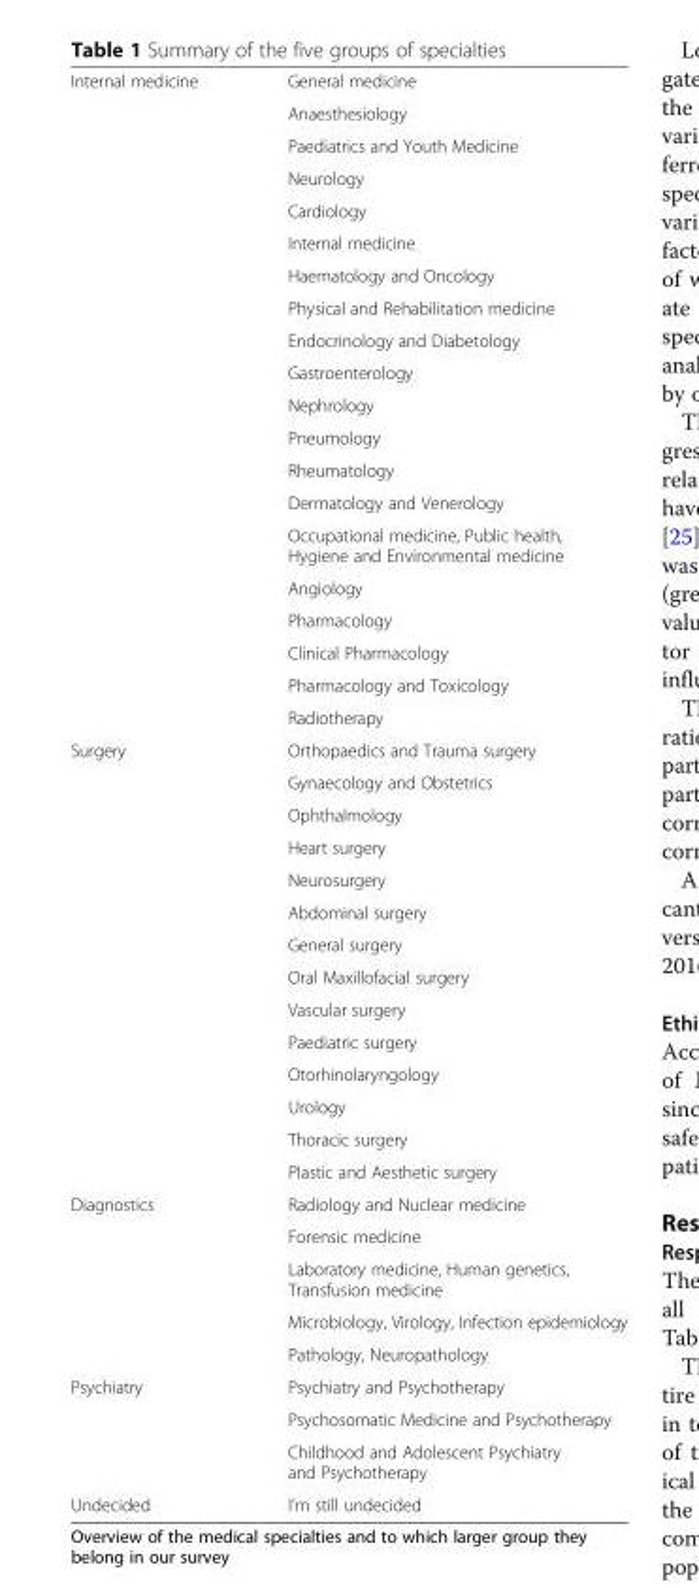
<table><tbody><tr><td rowspan="20">Internal medicine</td><td>General medicine</td></tr><tr><td>Anaesthesiology</td></tr><tr><td>Paediatrics and Youth Medicine</td></tr><tr><td>Neurology</td></tr><tr><td>Cardiology</td></tr><tr><td>Internal medicine</td></tr><tr><td>Haematology and Oncology</td></tr><tr><td>Physical and Rehabilitation medicine</td></tr><tr><td>Endocrinology and Diabetology</td></tr><tr><td>Gastroenterology</td></tr><tr><td>Nephrology</td></tr><tr><td>Pneumology</td></tr><tr><td>Rheumatology</td></tr><tr><td>Dermatology and Venerology</td></tr><tr><td>Occupational medicine, Public health, Hygiene and Environmental medicine</td></tr><tr><td>Angiology</td></tr><tr><td>Pharmacology</td></tr><tr><td>Clinical Pharmacology</td></tr><tr><td>Pharmacology and Toxicology</td></tr><tr><td>Radiotherapy</td></tr><tr><td rowspan="14">Surgery</td><td>Orthopaedics and Trauma surgery</td></tr><tr><td>Gynaecology and Obstetrics</td></tr><tr><td>Ophthalmology</td></tr><tr><td>Heart surgery</td></tr><tr><td>Neurosurgery</td></tr><tr><td>Abdominal surgery</td></tr><tr><td>General surgery</td></tr><tr><td>Oral Maxillofacial surgery</td></tr><tr><td>Vascular surgery</td></tr><tr><td>Paediatric surgery</td></tr><tr><td>Otorhinolaryngology</td></tr><tr><td>Urology</td></tr><tr><td>Thoracic surgery</td></tr><tr><td>Plastic and Aesthetic surgery</td></tr><tr><td rowspan="5">Diagnostics</td><td>Radiology and Nuclear medicine</td></tr><tr><td>Forensic medicine</td></tr><tr><td>Laboratory medicine, Human genetics, Transfusion medicine</td></tr><tr><td>Microbiology, Virology, Infection epidemiology</td></tr><tr><td>Pathology, Neuropathology</td></tr><tr><td rowspan="3">Psychiatry</td><td>Psychiatry and Psychotherapy</td></tr><tr><td>Psychosomatic Medicine and Psychotherapy</td></tr><tr><td>Childhood and Adolescent Psychiatry and Psychotherapy</td></tr><tr><td>Undecided</td><td>I’m still undecided</td></tr></tbody></table>